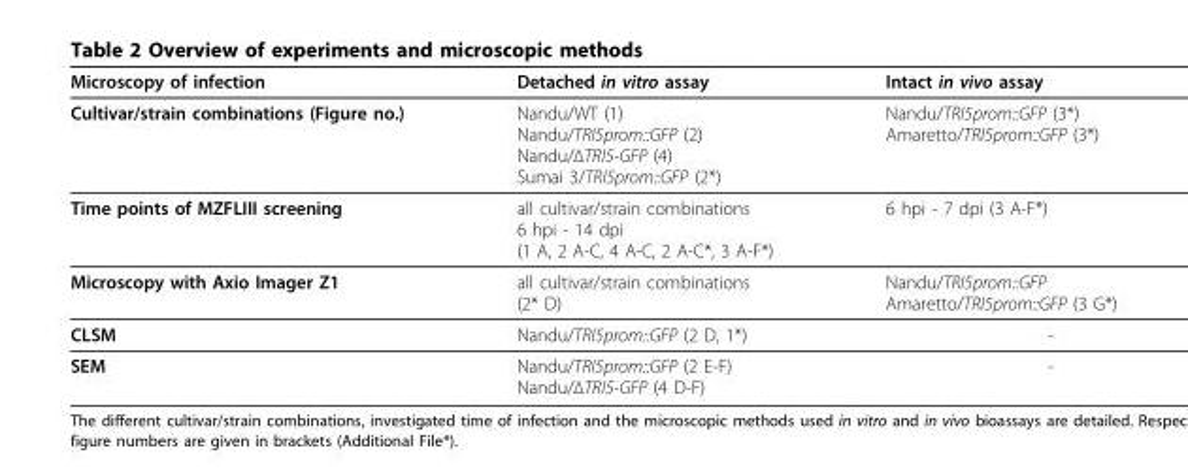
<table><thead><tr><td>Microscopy of infection</td><td>Detached in vitro assay</td><td>Intact in vivo assay</td></tr></thead><tbody><tr><td>Cultivar/strain combinations (Figure no.)</td><td>Nandu/WT (1) Nandu/TRI5prom::GFP (2) Nandu/ΔTRI5-GFP (4) Sumai 3/TRI5prom::GFP (2*)</td><td>Nandu/TRI5prom::GFP (3*) Amaretto/TRI5prom::GFP (3*)</td></tr><tr><td>Time points of MZFLIII screening</td><td>all cultivar/strain combinations 6 hpi - 14 dpi (1 A, 2 A-C, 4 A-C, 2 A-C*, 3 A-F*)</td><td>6 hpi - 7 dpi (3 A-F*)</td></tr><tr><td>Microscopy with Axio Imager Z1</td><td>all cultivar/strain combinations (2* D)</td><td>Nandu/TRI5prom::GFP Amaretto/TRI5prom::GFP (3 G*)</td></tr><tr><td>CLSM</td><td>Nandu/TRI5prom::GFP (2 D, 1*)</td><td>-</td></tr><tr><td>SEM</td><td>Nandu/TRI5prom::GFP (2 E-F) Nandu/ΔTRI5-GFP (4 D-F)</td><td>-</td></tr></tbody></table>